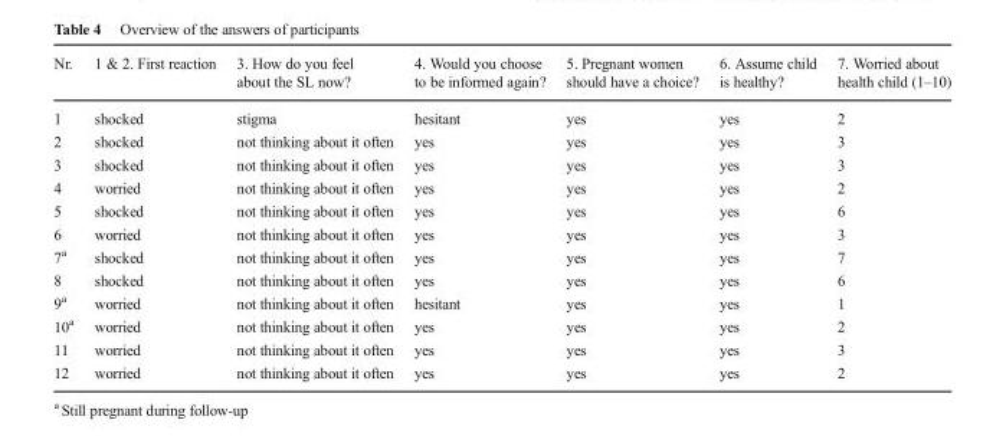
<table><thead><tr><td>Nr.</td><td>1 &amp; 2. First reaction</td><td>3. How do you feel about the SL now?</td><td>4. Would you choose to be informed again?</td><td>5. Pregnant women should have a choice?</td><td>6. Assume child is healthy?</td><td>7. Worried about health child (1–10)</td></tr></thead><tbody><tr><td>1</td><td>shocked</td><td>stigma</td><td>hesitant</td><td>yes</td><td>yes</td><td>2</td></tr><tr><td>2</td><td>shocked</td><td>not thinking about it often</td><td>yes</td><td>yes</td><td>yes</td><td>3</td></tr><tr><td>3</td><td>shocked</td><td>not thinking about it often</td><td>yes</td><td>yes</td><td>yes</td><td>3</td></tr><tr><td>4</td><td>worried</td><td>not thinking about it often</td><td>yes</td><td>yes</td><td>yes</td><td>2</td></tr><tr><td>5</td><td>shocked</td><td>not thinking about it often</td><td>yes</td><td>yes</td><td>yes</td><td>6</td></tr><tr><td>6</td><td>worried</td><td>not thinking about it often</td><td>yes</td><td>yes</td><td>yes</td><td>3</td></tr><tr><td>7<sup>a</sup></td><td>shocked</td><td>not thinking about it often</td><td>yes</td><td>yes</td><td>yes</td><td>7</td></tr><tr><td>8</td><td>shocked</td><td>not thinking about it often</td><td>yes</td><td>yes</td><td>yes</td><td>6</td></tr><tr><td>9<sup>a</sup></td><td>worried</td><td>not thinking about it often</td><td>hesitant</td><td>yes</td><td>yes</td><td>1</td></tr><tr><td>10<sup>a</sup></td><td>worried</td><td>not thinking about it often</td><td>yes</td><td>yes</td><td>yes</td><td>2</td></tr><tr><td>11</td><td>worried</td><td>not thinking about it often</td><td>yes</td><td>yes</td><td>yes</td><td>3</td></tr><tr><td>12</td><td>worried</td><td>not thinking about it often</td><td>yes</td><td>yes</td><td>yes</td><td>2</td></tr></tbody></table>